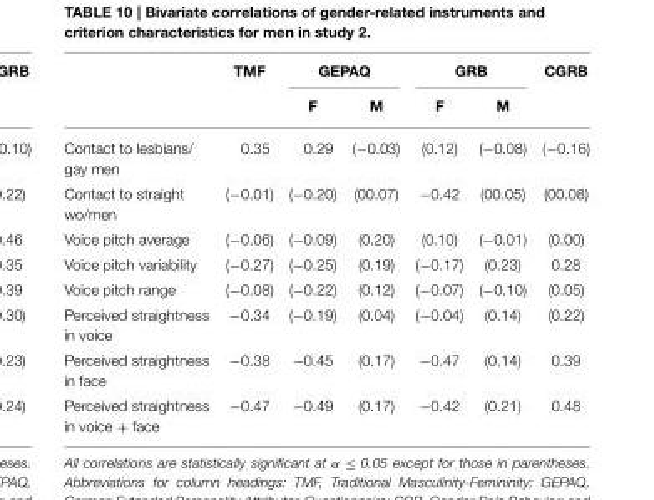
<table><thead><tr><td rowspan="2"></td><td rowspan="2">TMF</td><td colspan="2">GEPAQ</td><td colspan="2">GRB</td><td rowspan="2">CGRB</td></tr><tr><td>F</td><td>M</td><td>F</td><td>M</td></tr></thead><tbody><tr><td>Contact to lesbians/ gay men</td><td>0.35</td><td>0.29</td><td>(−0.03)</td><td>(0.12)</td><td>(−0.08)</td><td>(−0.16)</td></tr><tr><td>Contact to straight wo/men</td><td>(−0.01)</td><td>(−0.20)</td><td>(00.07)</td><td>−0.42</td><td>(00.05)</td><td>(00.08)</td></tr><tr><td>Voice pitch average</td><td>(−0.06)</td><td>(−0.09)</td><td>(0.20)</td><td>(0.10)</td><td>(−0.01)</td><td>(0.00)</td></tr><tr><td>Voice pitch variability</td><td>(−0.27)</td><td>(−0.25)</td><td>(0.19)</td><td>(−0.17)</td><td>(0.23)</td><td>0.28</td></tr><tr><td>Voice pitch range</td><td>(−0.08)</td><td>(−0.22)</td><td>(0.12)</td><td>(−0.07)</td><td>(−0.10)</td><td>(0.05)</td></tr><tr><td>Perceived straightness in voice</td><td>−0.34</td><td>(−0.19)</td><td>(0.04)</td><td>(−0.04)</td><td>(0.14)</td><td>(0.22)</td></tr><tr><td>Perceived straightness in face</td><td>−0.38</td><td>−0.45</td><td>(0.17)</td><td>−0.47</td><td>(0.14)</td><td>0.39</td></tr><tr><td>Perceived straightness in voice + face</td><td>−0.47</td><td>−0.49</td><td>(0.17)</td><td>−0.42</td><td>(0.21)</td><td>0.48</td></tr></tbody></table>